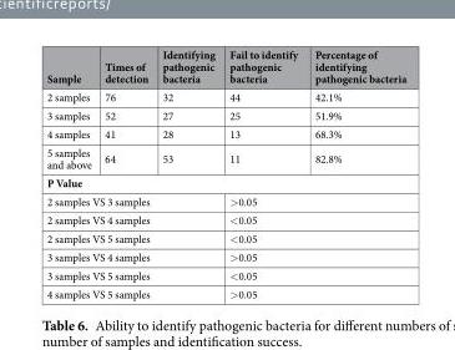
<table><thead><tr><td>Sample</td><td>Times of detection</td><td>Identifying pathogenic bacteria</td><td>Fail to identify pathogenic bacteria</td><td>Percentage of identifying pathogenic bacteria</td></tr></thead><tbody><tr><td>2 samples</td><td>76</td><td>32</td><td>44</td><td>42.1%</td></tr><tr><td>3 samples</td><td>52</td><td>27</td><td>25</td><td>51.9%</td></tr><tr><td>4 samples</td><td>41</td><td>28</td><td>13</td><td>68.3%</td></tr><tr><td>5 samples and above</td><td>64</td><td>53</td><td>11</td><td>82.8%</td></tr><tr><td colspan="5">P Value</td></tr><tr><td colspan="3">2 samples VS 3 samples</td><td colspan="2">&gt;0.05</td></tr><tr><td colspan="3">2 samples VS 4 samples</td><td colspan="2">&lt;0.05</td></tr><tr><td colspan="3">2 samples VS 5 samples</td><td colspan="2">&lt;0.05</td></tr><tr><td colspan="3">3 samples VS 4 samples</td><td colspan="2">&gt;0.05</td></tr><tr><td colspan="3">3 samples VS 5 samples</td><td colspan="2">&lt;0.05</td></tr><tr><td colspan="3">4 samples VS 5 samples</td><td colspan="2">&gt;0.05</td></tr></tbody></table>